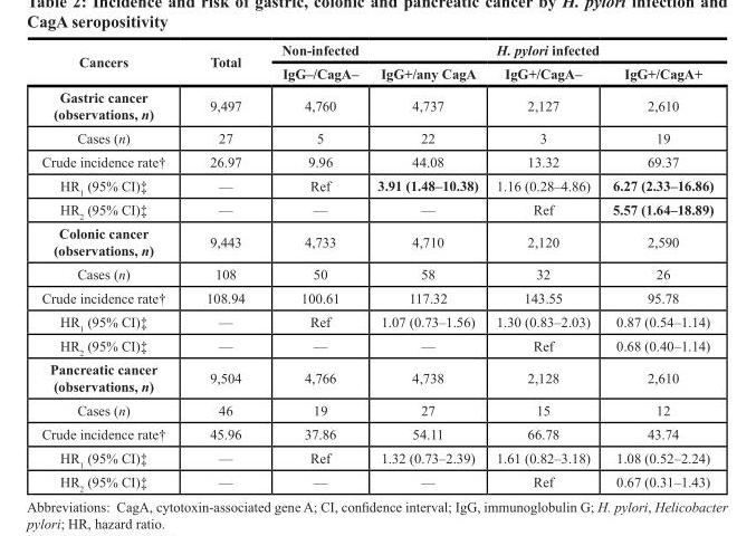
<table><thead><tr><td rowspan="2">Cancers</td><td rowspan="2">Total</td><td colspan="2">Non-infected</td><td colspan="2">H. pylori infected</td></tr><tr><td>IgG–/CagA–</td><td>IgG+/any CagA</td><td>IgG+/CagA–</td><td>IgG+/CagA+</td></tr></thead><tbody><tr><td>Gastric cancer (observations, n)</td><td>9,497</td><td>4,760</td><td>4,737</td><td>2,127</td><td>2,610</td></tr><tr><td>Cases (n)</td><td>27</td><td>5</td><td>22</td><td>3</td><td>19</td></tr><tr><td>Crude incidence rate†</td><td>26.97</td><td>9.96</td><td>44.08</td><td>13.32</td><td>69.37</td></tr><tr><td>HR<sub>1</sub> (95% CI)‡</td><td>—</td><td>Ref</td><td>3.91 (1.48–10.38)</td><td>1.16 (0.28–4.86)</td><td>6.27 (2.33–16.86)</td></tr><tr><td>HR<sub>2</sub> (95% CI)‡</td><td>—</td><td>—</td><td>—</td><td>Ref</td><td>5.57 (1.64–18.89)</td></tr><tr><td>Colonic cancer (observations, n)</td><td>9,443</td><td>4,733</td><td>4,710</td><td>2,120</td><td>2,590</td></tr><tr><td>Cases (n)</td><td>108</td><td>50</td><td>58</td><td>32</td><td>26</td></tr><tr><td>Crude incidence rate†</td><td>108.94</td><td>100.61</td><td>117.32</td><td>143.55</td><td>95.78</td></tr><tr><td>HR<sub>1</sub> (95% CI)‡</td><td>—</td><td>Ref</td><td>1.07 (0.73–1.56)</td><td>1.30 (0.83–2.03)</td><td>0.87 (0.54–1.14)</td></tr><tr><td>HR<sub>2</sub> (95% CI)‡</td><td>—</td><td>—</td><td>—</td><td>Ref</td><td>0.68 (0.40–1.14)</td></tr><tr><td>Pancreatic cancer (observations, n)</td><td>9,504</td><td>4,766</td><td>4,738</td><td>2,128</td><td>2,610</td></tr><tr><td>Cases (n)</td><td>46</td><td>19</td><td>27</td><td>15</td><td>12</td></tr><tr><td>Crude incidence rate†</td><td>45.96</td><td>37.86</td><td>54.11</td><td>66.78</td><td>43.74</td></tr><tr><td>HR<sub>1</sub> (95% CI)‡</td><td>—</td><td>Ref</td><td>1.32 (0.73–2.39)</td><td>1.61 (0.82–3.18)</td><td>1.08 (0.52–2.24)</td></tr><tr><td>HR<sub>2</sub> (95% CI)‡</td><td>—</td><td>—</td><td>—</td><td>Ref</td><td>0.67 (0.31–1.43)</td></tr></tbody></table>